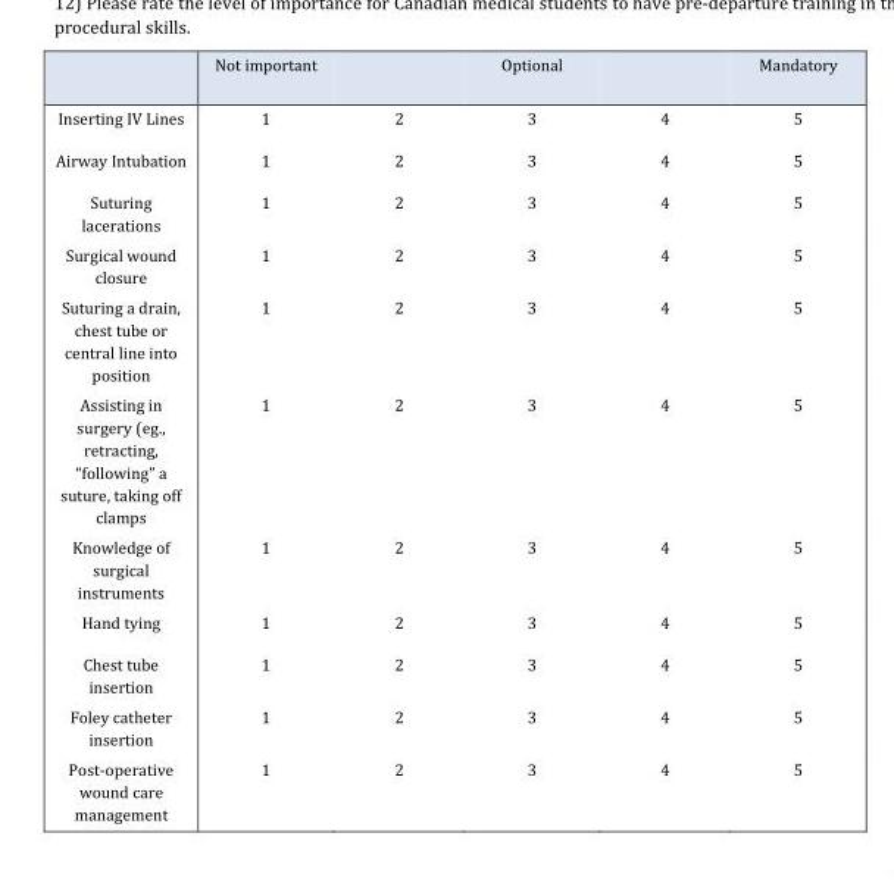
<table><thead><tr><td></td><td>Not important</td><td></td><td>Optional</td><td></td><td>Mandatory</td></tr></thead><tbody><tr><td>Inserting IV Lines</td><td>1</td><td>2</td><td>3</td><td>4</td><td>5</td></tr><tr><td>Airway Intubation</td><td>1</td><td>2</td><td>3</td><td>4</td><td>5</td></tr><tr><td>Suturing lacerations</td><td>1</td><td>2</td><td>3</td><td>4</td><td>5</td></tr><tr><td>Surgical wound closure</td><td>1</td><td>2</td><td>3</td><td>4</td><td>5</td></tr><tr><td>Suturing a drain, chest tube or central line into position</td><td>1</td><td>2</td><td>3</td><td>4</td><td>5</td></tr><tr><td>Assisting in surgery (eg., retracting, “following” a suture, taking off clamps</td><td>1</td><td>2</td><td>3</td><td>4</td><td>5</td></tr><tr><td>Knowledge of surgical instruments</td><td>1</td><td>2</td><td>3</td><td>4</td><td>5</td></tr><tr><td>Hand tying</td><td>1</td><td>2</td><td>3</td><td>4</td><td>5</td></tr><tr><td>Chest tube insertion</td><td>1</td><td>2</td><td>3</td><td>4</td><td>5</td></tr><tr><td>Foley catheter insertion</td><td>1</td><td>2</td><td>3</td><td>4</td><td>5</td></tr><tr><td>Post-operative wound care management</td><td>1</td><td>2</td><td>3</td><td>4</td><td>5</td></tr></tbody></table>